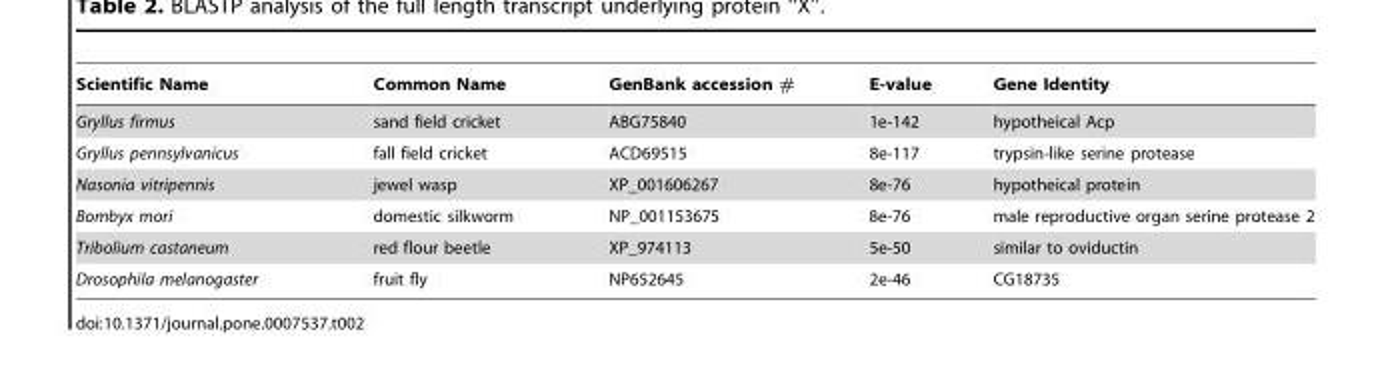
<table><thead><tr><td>Scientific Name</td><td>Common Name</td><td>GenBank accession #</td><td>E-value</td><td>Gene Identity</td></tr></thead><tbody><tr><td>Gryllus firmus</td><td>sand field cricket</td><td>ABG75840</td><td>1e-142</td><td>hypotheical Acp</td></tr><tr><td>Gryllus pennsylvanicus</td><td>fall field cricket</td><td>ACD69515</td><td>8e-117</td><td>trypsin-like serine protease</td></tr><tr><td>Nasonia vitripennis</td><td>jewel wasp</td><td>XP_001606267</td><td>8e-76</td><td>hypotheical protein</td></tr><tr><td>Bombyx mori</td><td>domestic silkworm</td><td>NP_001153675</td><td>8e-76</td><td>male reproductive organ serine protease 2</td></tr><tr><td>Tribolium castaneum</td><td>red flour beetle</td><td>XP_974113</td><td>5e-50</td><td>similar to oviductin</td></tr><tr><td>Drosophila melanogaster</td><td>fruit fly</td><td>NP652645</td><td>2e-46</td><td>CG18735</td></tr></tbody></table>